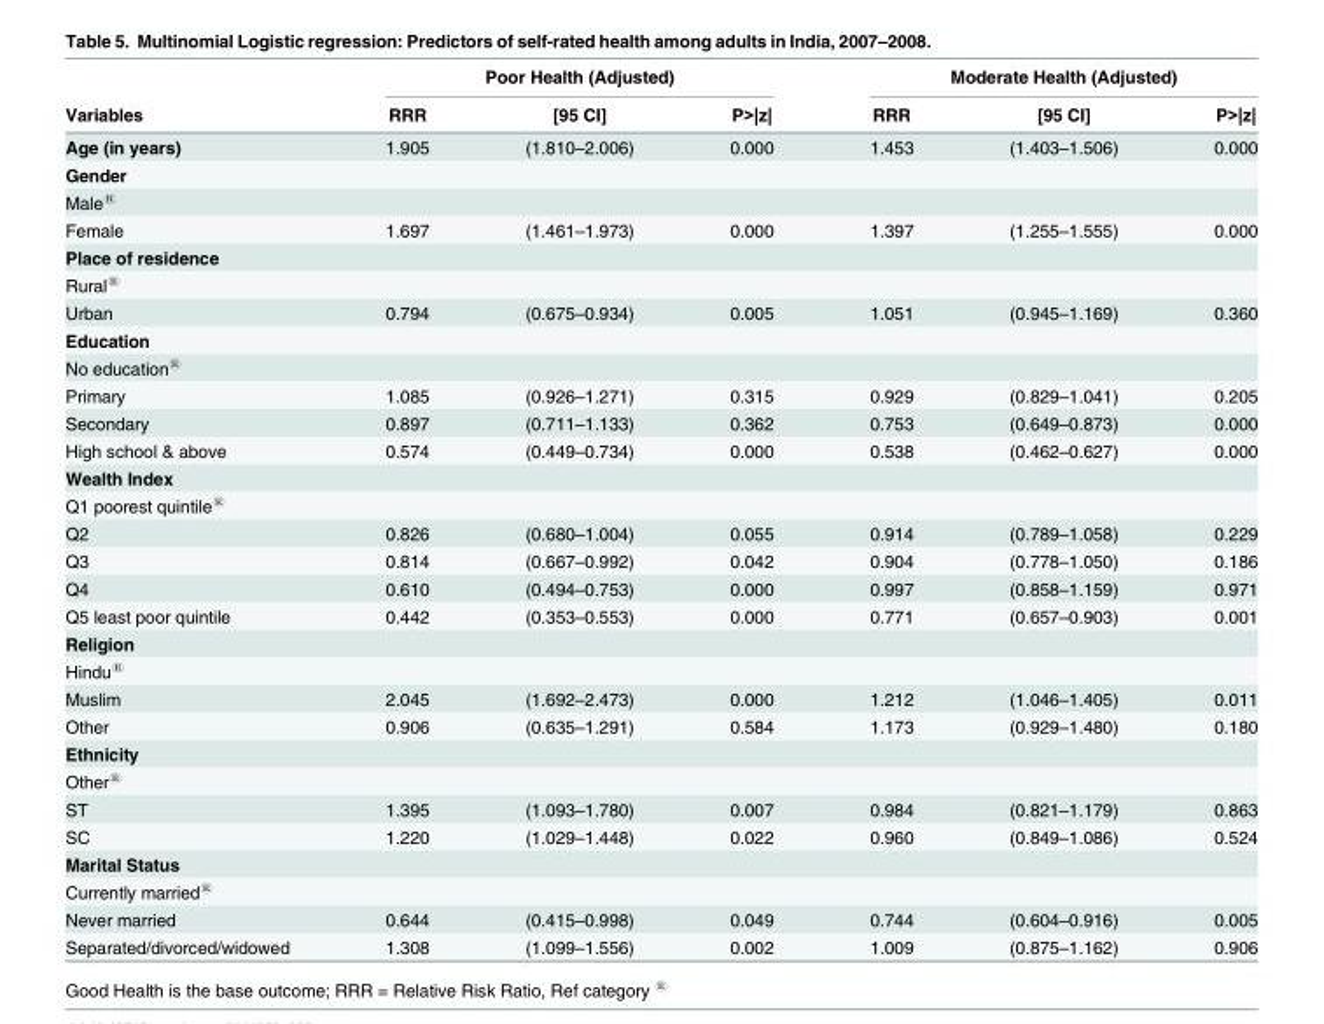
<table><thead><tr><td rowspan="2">Variables</td><td colspan="3">Poor Health (Adjusted)</td><td colspan="3">Moderate Health (Adjusted)</td></tr><tr><td>RRR</td><td>[95 CI]</td><td>P&gt;|z|</td><td>RRR</td><td>[95 CI]</td><td>P&gt;|z|</td></tr></thead><tbody><tr><td>Age (in years)</td><td>1.905</td><td>(1.810–2.006)</td><td>0.000</td><td>1.453</td><td>(1.403–1.506)</td><td>0.000</td></tr><tr><td colspan="7">Gender</td></tr><tr><td colspan="7">Male<sup>®</sup></td></tr><tr><td>Female</td><td>1.697</td><td>(1.461–1.973)</td><td>0.000</td><td>1.397</td><td>(1.255–1.555)</td><td>0.000</td></tr><tr><td colspan="7">Place of residence</td></tr><tr><td colspan="7">Rural<sup>®</sup></td></tr><tr><td>Urban</td><td>0.794</td><td>(0.675–0.934)</td><td>0.005</td><td>1.051</td><td>(0.945–1.169)</td><td>0.360</td></tr><tr><td colspan="7">Education</td></tr><tr><td colspan="7">No education<sup>®</sup></td></tr><tr><td>Primary</td><td>1.085</td><td>(0.926–1.271)</td><td>0.315</td><td>0.929</td><td>(0.829–1.041)</td><td>0.205</td></tr><tr><td>Secondary</td><td>0.897</td><td>(0.711–1.133)</td><td>0.362</td><td>0.753</td><td>(0.649–0.873)</td><td>0.000</td></tr><tr><td>High school &amp; above</td><td>0.574</td><td>(0.449–0.734)</td><td>0.000</td><td>0.538</td><td>(0.462–0.627)</td><td>0.000</td></tr><tr><td colspan="7">Wealth Index</td></tr><tr><td colspan="7">Q1 poorest quintile<sup>®</sup></td></tr><tr><td>Q2</td><td>0.826</td><td>(0.680–1.004)</td><td>0.055</td><td>0.914</td><td>(0.789–1.058)</td><td>0.229</td></tr><tr><td>Q3</td><td>0.814</td><td>(0.667–0.992)</td><td>0.042</td><td>0.904</td><td>(0.778–1.050)</td><td>0.186</td></tr><tr><td>Q4</td><td>0.610</td><td>(0.494–0.753)</td><td>0.000</td><td>0.997</td><td>(0.858–1.159)</td><td>0.971</td></tr><tr><td>Q5 least poor quintile</td><td>0.442</td><td>(0.353–0.553)</td><td>0.000</td><td>0.771</td><td>(0.657–0.903)</td><td>0.001</td></tr><tr><td colspan="7">Religion</td></tr><tr><td colspan="7">Hindu<sup>®</sup></td></tr><tr><td>Muslim</td><td>2.045</td><td>(1.692–2.473)</td><td>0.000</td><td>1.212</td><td>(1.046–1.405)</td><td>0.011</td></tr><tr><td>Other</td><td>0.906</td><td>(0.635–1.291)</td><td>0.584</td><td>1.173</td><td>(0.929–1.480)</td><td>0.180</td></tr><tr><td colspan="7">Ethnicity</td></tr><tr><td colspan="7">Other<sup>®</sup></td></tr><tr><td>ST</td><td>1.395</td><td>(1.093–1.780)</td><td>0.007</td><td>0.984</td><td>(0.821–1.179)</td><td>0.863</td></tr><tr><td>SC</td><td>1.220</td><td>(1.029–1.448)</td><td>0.022</td><td>0.960</td><td>(0.849–1.086)</td><td>0.524</td></tr><tr><td colspan="7">Marital Status</td></tr><tr><td colspan="7">Currently married<sup>®</sup></td></tr><tr><td>Never married</td><td>0.644</td><td>(0.415–0.998)</td><td>0.049</td><td>0.744</td><td>(0.604–0.916)</td><td>0.005</td></tr><tr><td>Separated/divorced/widowed</td><td>1.308</td><td>(1.099–1.556)</td><td>0.002</td><td>1.009</td><td>(0.875–1.162)</td><td>0.906</td></tr></tbody></table>